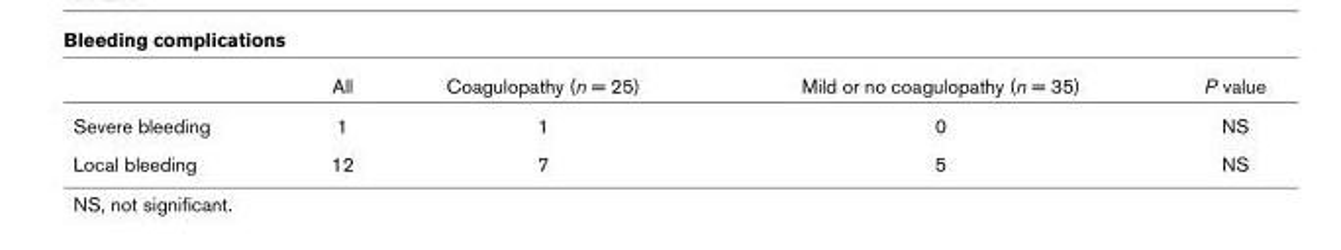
<table><thead><tr><td></td><td>All</td><td>Coagulopathy (n = 25)</td><td>Mild or no coagulopathy (n = 35)</td><td>P value</td></tr></thead><tbody><tr><td>Severe bleeding</td><td>1</td><td>1</td><td>0</td><td>NS</td></tr><tr><td>Local bleeding</td><td>12</td><td>7</td><td>5</td><td>NS</td></tr></tbody></table>